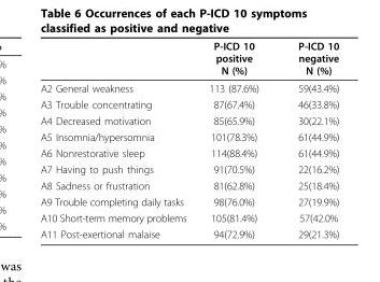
<table><thead><tr><td></td><td>P-ICD 10 positive N (%)</td><td>P-ICD 10 negative N (%)</td></tr></thead><tbody><tr><td>A2 General weakness</td><td>113 (87.6%)</td><td>59(43.4%)</td></tr><tr><td>A3 Trouble concentrating</td><td>87(67.4%)</td><td>46(33.8%)</td></tr><tr><td>A4 Decreased motivation</td><td>85(65.9%)</td><td>30(22.1%)</td></tr><tr><td>A5 Insomnia/hypersomnia</td><td>101(78.3%)</td><td>61(44.9%)</td></tr><tr><td>A6 Nonrestorative sleep</td><td>114(88.4%)</td><td>61(44.9%)</td></tr><tr><td>A7 Having to push things</td><td>91(70.5%)</td><td>22(16.2%)</td></tr><tr><td>A8 Sadness or frustration</td><td>81(62.8%)</td><td>25(18.4%)</td></tr><tr><td>A9 Trouble completing daily tasks</td><td>98(76.0%)</td><td>27(19.9%)</td></tr><tr><td>A10 Short-term memory problems</td><td>105(81.4%)</td><td>57(42.0%</td></tr><tr><td>A11 Post-exertional malaise</td><td>94(72.9%)</td><td>29(21.3%)</td></tr></tbody></table>